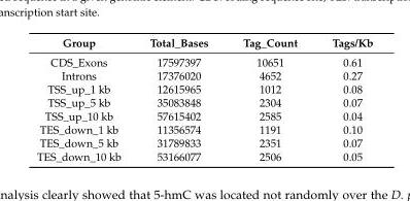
<table><thead><tr><td>Group</td><td>Total_Bases</td><td>Tag_Count</td><td>Tags/Kb</td></tr></thead><tbody><tr><td>CDS_Exons</td><td>17597397</td><td>10651</td><td>0.61</td></tr><tr><td>Introns</td><td>17376020</td><td>4652</td><td>0.27</td></tr><tr><td>TSS_up_1 kb</td><td>12615965</td><td>1012</td><td>0.08</td></tr><tr><td>TSS_up_5 kb</td><td>35083848</td><td>2304</td><td>0.07</td></tr><tr><td>TSS_up_10 kb</td><td>57615402</td><td>2585</td><td>0.04</td></tr><tr><td>TES_down_1 kb</td><td>11356574</td><td>1191</td><td>0.10</td></tr><tr><td>TES_down_5 kb</td><td>31789833</td><td>2351</td><td>0.07</td></tr><tr><td>TES_down_10 kb</td><td>53166077</td><td>2506</td><td>0.05</td></tr></tbody></table>